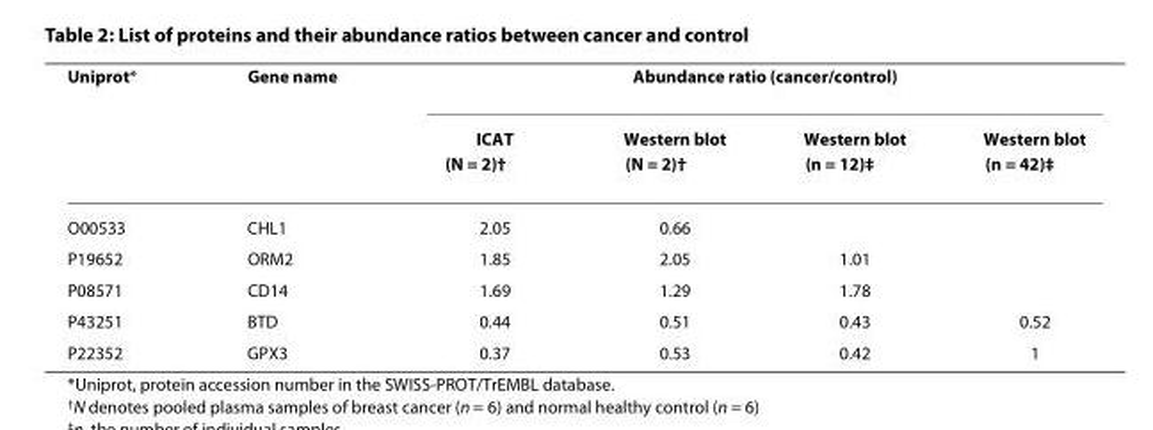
<table><thead><tr><td rowspan="2">Uniprot*</td><td rowspan="2">Gene name</td><td colspan="4">Abundance ratio (cancer/control)</td></tr><tr><td>ICAT (N = 2)<sup>†</sup></td><td>Western blot (N = 2)<sup>†</sup></td><td>Western blot (n = 12)<sup>‡</sup></td><td>Western blot (n = 42)<sup>‡</sup></td></tr></thead><tbody><tr><td>O00533</td><td>CHL1</td><td>2.05</td><td>0.66</td><td></td><td></td></tr><tr><td>P19652</td><td>ORM2</td><td>1.85</td><td>2.05</td><td>1.01</td><td></td></tr><tr><td>P08571</td><td>CD14</td><td>1.69</td><td>1.29</td><td>1.78</td><td></td></tr><tr><td>P43251</td><td>BTD</td><td>0.44</td><td>0.51</td><td>0.43</td><td>0.52</td></tr><tr><td>P22352</td><td>GPX3</td><td>0.37</td><td>0.53</td><td>0.42</td><td>1</td></tr></tbody></table>